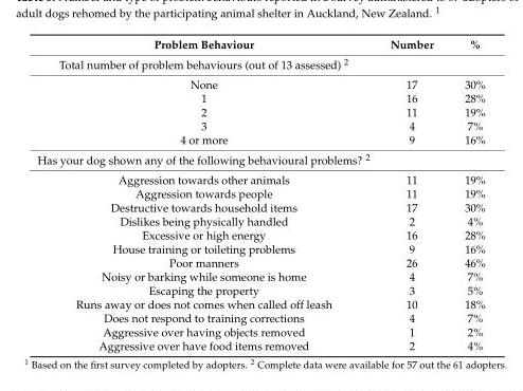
<table><thead><tr><td>Problem Behaviour</td><td>Number</td><td>%</td></tr></thead><tbody><tr><td colspan="3">Total number of problem behaviours (out of 13 assessed) <sup>2</sup></td></tr><tr><td>None</td><td>17</td><td>30%</td></tr><tr><td>1</td><td>16</td><td>28%</td></tr><tr><td>2</td><td>11</td><td>19%</td></tr><tr><td>3</td><td>4</td><td>7%</td></tr><tr><td>4 or more</td><td>9</td><td>16%</td></tr><tr><td colspan="3">Has your dog shown any of the following behavioural problems? <sup>2</sup></td></tr><tr><td>Aggression towards other animals</td><td>11</td><td>19%</td></tr><tr><td>Aggression towards people</td><td>11</td><td>19%</td></tr><tr><td>Destructive towards household items</td><td>17</td><td>30%</td></tr><tr><td>Dislikes being physically handled</td><td>2</td><td>4%</td></tr><tr><td>Excessive or high energy</td><td>16</td><td>28%</td></tr><tr><td>House training or toileting problems</td><td>9</td><td>16%</td></tr><tr><td>Poor manners</td><td>26</td><td>46%</td></tr><tr><td>Noisy or barking while someone is home</td><td>4</td><td>7%</td></tr><tr><td>Escaping the property</td><td>3</td><td>5%</td></tr><tr><td>Runs away or does not comes when called off leash</td><td>10</td><td>18%</td></tr><tr><td>Does not respond to training corrections</td><td>4</td><td>7%</td></tr><tr><td>Aggressive over having objects removed</td><td>1</td><td>2%</td></tr><tr><td>Aggressive over have food items removed</td><td>2</td><td>4%</td></tr></tbody></table>